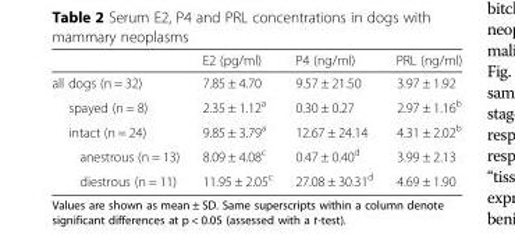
<table><thead><tr><td></td><td>E2 (pg/ml)</td><td>P4 (ng/ml)</td><td>PRL (ng/ml)</td></tr></thead><tbody><tr><td>all dogs (n = 32)</td><td>7.85 ± 4.70</td><td>9.57 ± 21.50</td><td>3.97 ± 1.92</td></tr><tr><td>spayed (n = 8)</td><td>2.35 ± 1.12<sup>a</sup></td><td>0.30 ± 0.27</td><td>2.97 ± 1.16<sup>b</sup></td></tr><tr><td>intact (n = 24)</td><td>9.85 ± 3.79<sup>a</sup></td><td>12.67 ± 24.14</td><td>4.31 ± 2.02<sup>b</sup></td></tr><tr><td>anestrous (n = 13)</td><td>8.09 ± 4.08<sup>c</sup></td><td>0.47 ± 0.40<sup>d</sup></td><td>3.99 ± 2.13</td></tr><tr><td>diestrous (n = 11)</td><td>11.95 ± 2.05<sup>c</sup></td><td>27.08 ± 30.31<sup>d</sup></td><td>4.69 ± 1.90</td></tr></tbody></table>